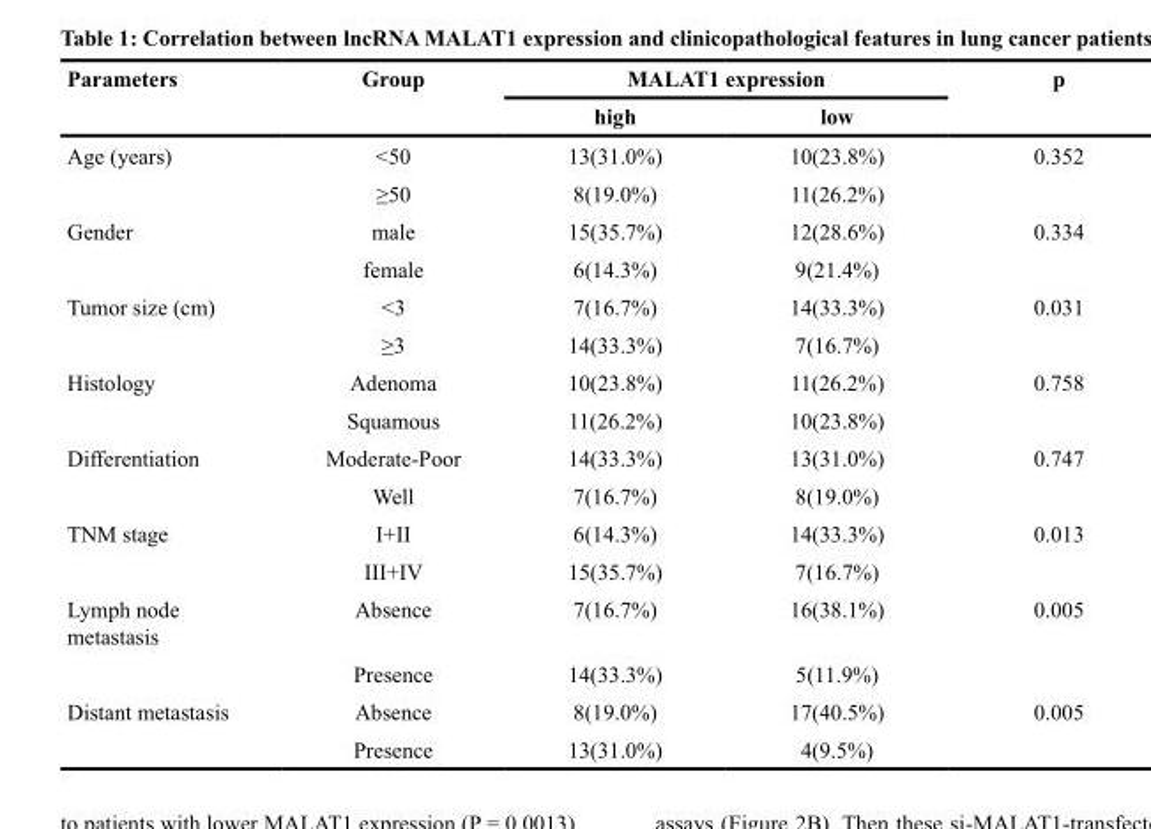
<table><thead><tr><td rowspan="2">Parameters</td><td rowspan="2">Group</td><td colspan="2">MALAT1 expression</td><td rowspan="2">p</td></tr><tr><td>high</td><td>low</td></tr></thead><tbody><tr><td rowspan="2">Age (years)</td><td>&lt;50</td><td>13(31.0%)</td><td>10(23.8%)</td><td>0.352</td></tr><tr><td>≥50</td><td>8(19.0%)</td><td>11(26.2%)</td><td></td></tr><tr><td rowspan="2">Gender</td><td>male</td><td>15(35.7%)</td><td>12(28.6%)</td><td>0.334</td></tr><tr><td>female</td><td>6(14.3%)</td><td>9(21.4%)</td><td></td></tr><tr><td rowspan="2">Tumor size (cm)</td><td>&lt;3</td><td>7(16.7%)</td><td>14(33.3%)</td><td>0.031</td></tr><tr><td>≥3</td><td>14(33.3%)</td><td>7(16.7%)</td><td></td></tr><tr><td rowspan="2">Histology</td><td>Adenoma</td><td>10(23.8%)</td><td>11(26.2%)</td><td>0.758</td></tr><tr><td>Squamous</td><td>11(26.2%)</td><td>10(23.8%)</td><td></td></tr><tr><td rowspan="2">Differentiation</td><td>Moderate-Poor</td><td>14(33.3%)</td><td>13(31.0%)</td><td>0.747</td></tr><tr><td>Well</td><td>7(16.7%)</td><td>8(19.0%)</td><td></td></tr><tr><td rowspan="2">TNM stage</td><td>I+II</td><td>6(14.3%)</td><td>14(33.3%)</td><td>0.013</td></tr><tr><td>III+IV</td><td>15(35.7%)</td><td>7(16.7%)</td><td></td></tr><tr><td rowspan="2">Lymph node metastasis</td><td>Absence</td><td>7(16.7%)</td><td>16(38.1%)</td><td>0.005</td></tr><tr><td>Presence</td><td>14(33.3%)</td><td>5(11.9%)</td><td></td></tr><tr><td rowspan="2">Distant metastasis</td><td>Absence</td><td>8(19.0%)</td><td>17(40.5%)</td><td>0.005</td></tr><tr><td>Presence</td><td>13(31.0%)</td><td>4(9.5%)</td><td></td></tr></tbody></table>